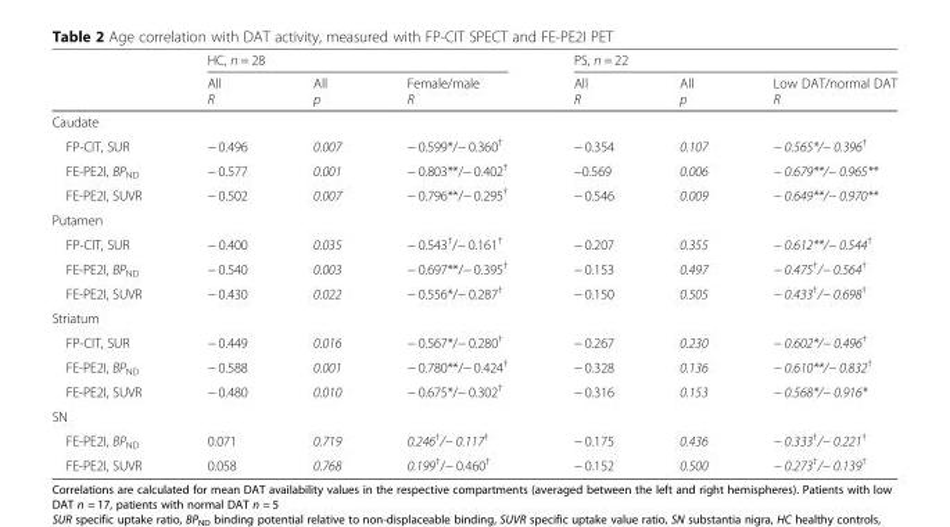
<table><thead><tr><td rowspan="2"></td><td colspan="3">HC, n = 28</td><td colspan="3">PS, n = 22</td></tr><tr><td>All R</td><td>All p</td><td>Female/male R</td><td>All R</td><td>All p</td><td>Low DAT/normal DAT R</td></tr></thead><tbody><tr><td colspan="7">Caudate</td></tr><tr><td>FP-CIT, SUR</td><td>− 0.496</td><td>0.007</td><td>− 0.599*/− 0.360<sup>†</sup></td><td>− 0.354</td><td>0.107</td><td>− 0.565*/− 0.396<sup>†</sup></td></tr><tr><td>FE-PE2I, BP<sub>ND</sub></td><td>− 0.577</td><td>0.001</td><td>− 0.803**/− 0.402<sup>†</sup></td><td>−0.569</td><td>0.006</td><td>− 0.679**/− 0.965**</td></tr><tr><td>FE-PE2I, SUVR</td><td>− 0.502</td><td>0.007</td><td>− 0.796**/− 0.295<sup>†</sup></td><td>− 0.546</td><td>0.009</td><td>− 0.649**/− 0.970**</td></tr><tr><td colspan="7">Putamen</td></tr><tr><td>FP-CIT, SUR</td><td>− 0.400</td><td>0.035</td><td>− 0.543<sup>†</sup>/− 0.161<sup>†</sup></td><td>− 0.207</td><td>0.355</td><td>− 0.612**/− 0.544<sup>†</sup></td></tr><tr><td>FE-PE2I, BP<sub>ND</sub></td><td>− 0.540</td><td>0.003</td><td>− 0.697**/− 0.395<sup>†</sup></td><td>− 0.153</td><td>0.497</td><td>− 0.475<sup>†</sup>/− 0.564<sup>†</sup></td></tr><tr><td>FE-PE2I, SUVR</td><td>− 0.430</td><td>0.022</td><td>− 0.556*/− 0.287<sup>†</sup></td><td>− 0.150</td><td>0.505</td><td>− 0.433<sup>†</sup>/− 0.698<sup>†</sup></td></tr><tr><td colspan="7">Striatum</td></tr><tr><td>FP-CIT, SUR</td><td>− 0.449</td><td>0.016</td><td>− 0.567*/− 0.280<sup>†</sup></td><td>− 0.267</td><td>0.230</td><td>− 0.602*/− 0.496<sup>†</sup></td></tr><tr><td>FE-PE2I, BP<sub>ND</sub></td><td>− 0.588</td><td>0.001</td><td>− 0.780**/− 0.424<sup>†</sup></td><td>− 0.328</td><td>0.136</td><td>− 0.610**/− 0.832<sup>†</sup></td></tr><tr><td>FE-PE2I, SUVR</td><td>− 0.480</td><td>0.010</td><td>− 0.675*/− 0.302<sup>†</sup></td><td>− 0.316</td><td>0.153</td><td>− 0.568*/− 0.916*</td></tr><tr><td colspan="7">SN</td></tr><tr><td>FE-PE2I, BP<sub>ND</sub></td><td>0.071</td><td>0.719</td><td>0.246<sup>†</sup>/− 0.117<sup>†</sup></td><td>− 0.175</td><td>0.436</td><td>− 0.333<sup>†</sup>/− 0.221<sup>†</sup></td></tr><tr><td>FE-PE2I, SUVR</td><td>0.058</td><td>0.768</td><td>0.199<sup>†</sup>/− 0.460<sup>†</sup></td><td>− 0.152</td><td>0.500</td><td>− 0.273<sup>†</sup>/− 0.139<sup>†</sup></td></tr></tbody></table>